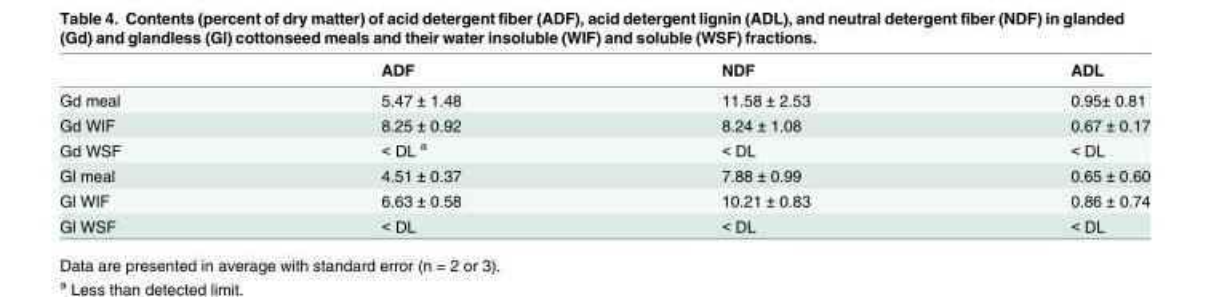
<table><thead><tr><td></td><td>ADF</td><td>NDF</td><td>ADL</td></tr></thead><tbody><tr><td>Gd meal</td><td>5.47 ± 1.48</td><td>11.58 ± 2.53</td><td>0.95± 0.81</td></tr><tr><td>Gd WIF</td><td>8.25 ± 0.92</td><td>8.24 ± 1.08</td><td>0.67 ± 0.17</td></tr><tr><td>Gd WSF</td><td>&lt; DL <sup>a</sup></td><td>&lt; DL</td><td>&lt; DL</td></tr><tr><td>Gl meal</td><td>4.51 ± 0.37</td><td>7.88 ± 0.99</td><td>0.65 ± 0.60</td></tr><tr><td>Gl WIF</td><td>6.63 ± 0.58</td><td>10.21 ± 0.83</td><td>0.86 ± 0.74</td></tr><tr><td>Gl WSF</td><td>&lt; DL</td><td>&lt; DL</td><td>&lt; DL</td></tr></tbody></table>